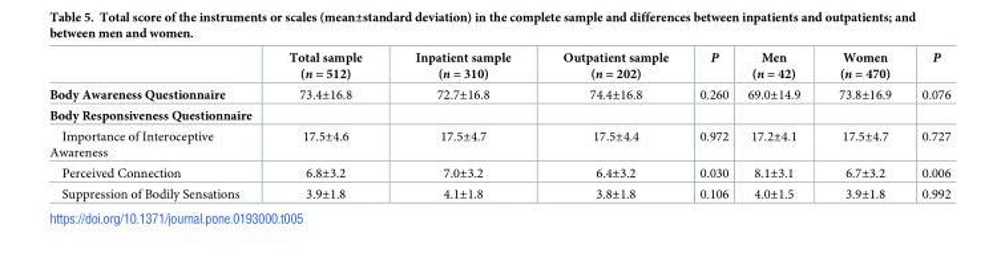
<table><thead><tr><td></td><td>Total sample (n = 512)</td><td>Inpatient sample (n = 310)</td><td>Outpatient sample (n = 202)</td><td>P</td><td>Men (n = 42)</td><td>Women (n = 470)</td><td>P</td></tr></thead><tbody><tr><td>Body Awareness Questionnaire</td><td>73.4±16.8</td><td>72.7±16.8</td><td>74.4±16.8</td><td>0.260</td><td>69.0±14.9</td><td>73.8±16.9</td><td>0.076</td></tr><tr><td colspan="8">Body Responsiveness Questionnaire</td></tr><tr><td>Importance of Interoceptive Awareness</td><td>17.5±4.6</td><td>17.5±4.7</td><td>17.5±4.4</td><td>0.972</td><td>17.2±4.1</td><td>17.5±4.7</td><td>0.727</td></tr><tr><td>Perceived Connection</td><td>6.8±3.2</td><td>7.0±3.2</td><td>6.4±3.2</td><td>0.030</td><td>8.1±3.1</td><td>6.7±3.2</td><td>0.006</td></tr><tr><td>Suppression of Bodily Sensations</td><td>3.9±1.8</td><td>4.1±1.8</td><td>3.8±1.8</td><td>0.106</td><td>4.0±1.5</td><td>3.9±1.8</td><td>0.992</td></tr></tbody></table>